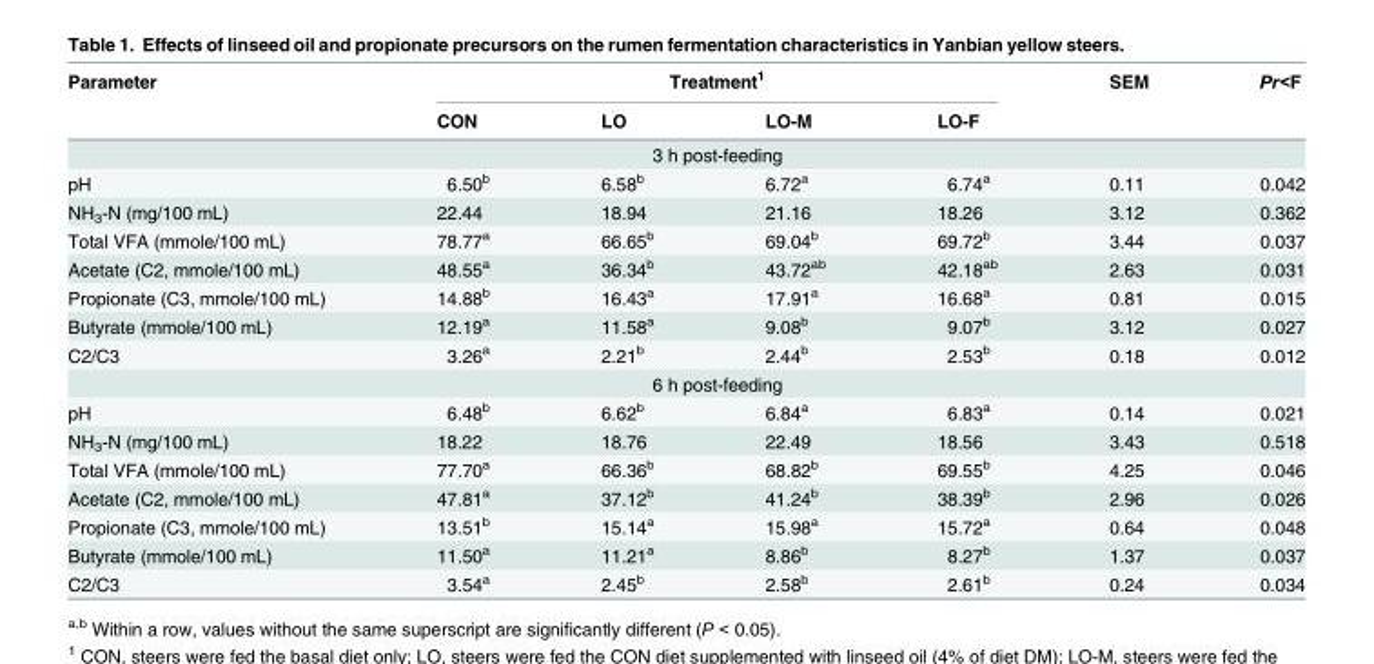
<table><thead><tr><td rowspan="2">Parameter</td><td colspan="4">Treatment<sup>1</sup></td><td rowspan="2">SEM</td><td rowspan="2">Pr&lt;F</td></tr><tr><td>CON</td><td>LO</td><td>LO-M</td><td>LO-F</td></tr></thead><tbody><tr><td></td><td colspan="4">3 h post-feeding</td><td></td><td></td></tr><tr><td>pH</td><td>6.50<sup>b</sup></td><td>6.58<sup>b</sup></td><td>6.72<sup>a</sup></td><td>6.74<sup>a</sup></td><td>0.11</td><td>0.042</td></tr><tr><td>NH<sub>3</sub>-N (mg/100 mL)</td><td>22.44</td><td>18.94</td><td>21.16</td><td>18.26</td><td>3.12</td><td>0.362</td></tr><tr><td>Total VFA (mmole/100 mL)</td><td>78.77<sup>a</sup></td><td>66.65<sup>b</sup></td><td>69.04<sup>b</sup></td><td>69.72<sup>b</sup></td><td>3.44</td><td>0.037</td></tr><tr><td>Acetate (C2, mmole/100 mL)</td><td>48.55<sup>a</sup></td><td>36.34<sup>b</sup></td><td>43.72<sup>ab</sup></td><td>42.18<sup>ab</sup></td><td>2.63</td><td>0.031</td></tr><tr><td>Propionate (C3, mmole/100 mL)</td><td>14.88<sup>b</sup></td><td>16.43<sup>a</sup></td><td>17.91<sup>a</sup></td><td>16.68<sup>a</sup></td><td>0.81</td><td>0.015</td></tr><tr><td>Butyrate (mmole/100 mL)</td><td>12.19<sup>a</sup></td><td>11.58<sup>a</sup></td><td>9.08<sup>b</sup></td><td>9.07<sup>b</sup></td><td>3.12</td><td>0.027</td></tr><tr><td rowspan="2">C2/C3</td><td>3.26<sup>a</sup></td><td>2.21<sup>b</sup></td><td>2.44<sup>b</sup></td><td>2.53<sup>b</sup></td><td>0.18</td><td>0.012</td></tr><tr><td colspan="4">6 h post-feeding</td><td></td><td></td></tr><tr><td>pH</td><td>6.48<sup>b</sup></td><td>6.62<sup>b</sup></td><td>6.84<sup>a</sup></td><td>6.83<sup>a</sup></td><td>0.14</td><td>0.021</td></tr><tr><td>NH<sub>3</sub>-N (mg/100 mL)</td><td>18.22</td><td>18.76</td><td>22.49</td><td>18.56</td><td>3.43</td><td>0.518</td></tr><tr><td>Total VFA (mmole/100 mL)</td><td>77.70<sup>a</sup></td><td>66.36<sup>b</sup></td><td>68.82<sup>b</sup></td><td>69.55<sup>b</sup></td><td>4.25</td><td>0.046</td></tr><tr><td>Acetate (C2, mmole/100 mL)</td><td>47.81<sup>a</sup></td><td>37.12<sup>b</sup></td><td>41.24<sup>b</sup></td><td>38.39<sup>b</sup></td><td>2.96</td><td>0.026</td></tr><tr><td>Propionate (C3, mmole/100 mL)</td><td>13.51<sup>b</sup></td><td>15.14<sup>a</sup></td><td>15.98<sup>a</sup></td><td>15.72<sup>a</sup></td><td>0.64</td><td>0.048</td></tr><tr><td>Butyrate (mmole/100 mL)</td><td>11.50<sup>a</sup></td><td>11.21<sup>a</sup></td><td>8.86<sup>b</sup></td><td>8.27<sup>b</sup></td><td>1.37</td><td>0.037</td></tr><tr><td>C2/C3</td><td>3.54<sup>a</sup></td><td>2.45<sup>b</sup></td><td>2.58<sup>b</sup></td><td>2.61<sup>b</sup></td><td>0.24</td><td>0.034</td></tr></tbody></table>